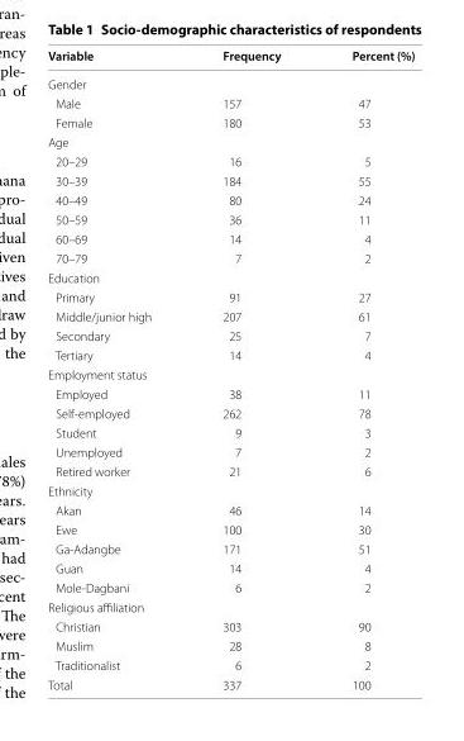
<table><thead><tr><td>Variable</td><td>Frequency</td><td>Percent (%)</td></tr></thead><tbody><tr><td colspan="3">Gender</td></tr><tr><td>Male</td><td>157</td><td>47</td></tr><tr><td>Female</td><td>180</td><td>53</td></tr><tr><td colspan="3">Age</td></tr><tr><td>20–29</td><td>16</td><td>5</td></tr><tr><td>30–39</td><td>184</td><td>55</td></tr><tr><td>40–49</td><td>80</td><td>24</td></tr><tr><td>50–59</td><td>36</td><td>11</td></tr><tr><td>60–69</td><td>14</td><td>4</td></tr><tr><td>70–79</td><td>7</td><td>2</td></tr><tr><td colspan="3">Education</td></tr><tr><td>Primary</td><td>91</td><td>27</td></tr><tr><td>Middle/junior high</td><td>207</td><td>61</td></tr><tr><td>Secondary</td><td>25</td><td>7</td></tr><tr><td>Tertiary</td><td>14</td><td>4</td></tr><tr><td colspan="3">Employment status</td></tr><tr><td>Employed</td><td>38</td><td>11</td></tr><tr><td>Self-employed</td><td>262</td><td>78</td></tr><tr><td>Student</td><td>9</td><td>3</td></tr><tr><td>Unemployed</td><td>7</td><td>2</td></tr><tr><td>Retired worker</td><td>21</td><td>6</td></tr><tr><td colspan="3">Ethnicity</td></tr><tr><td>Akan</td><td>46</td><td>14</td></tr><tr><td>Ewe</td><td>100</td><td>30</td></tr><tr><td>Ga-Adangbe</td><td>171</td><td>51</td></tr><tr><td>Guan</td><td>14</td><td>4</td></tr><tr><td>Mole-Dagbani</td><td>6</td><td>2</td></tr><tr><td colspan="3">Religious affiliation</td></tr><tr><td>Christian</td><td>303</td><td>90</td></tr><tr><td>Muslim</td><td>28</td><td>8</td></tr><tr><td>Traditionalist</td><td>6</td><td>2</td></tr><tr><td>Total</td><td>337</td><td>100</td></tr></tbody></table>